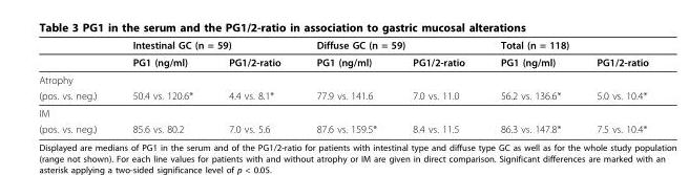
<table><thead><tr><td rowspan="2"></td><td colspan="2">Intestinal GC (n = 59)</td><td colspan="2">Diffuse GC (n = 59)</td><td colspan="2">Total (n = 118)</td></tr><tr><td>PG1 (ng/ml)</td><td>PG1/2-ratio</td><td>PG1 (ng/ml)</td><td>PG1/2-ratio</td><td>PG1 (ng/ml)</td><td>PG1/2-ratio</td></tr></thead><tbody><tr><td colspan="7">Atrophy</td></tr><tr><td>(pos. vs. neg.)</td><td>50.4 vs. 120.6*</td><td>4.4 vs. 8.1*</td><td>77.9 vs. 141.6</td><td>7.0 vs. 11.0</td><td>56.2 vs. 136.6*</td><td>5.0 vs. 10.4*</td></tr><tr><td colspan="7">IM</td></tr><tr><td>(pos. vs. neg.)</td><td>85.6 vs. 80.2</td><td>7.0 vs. 5.6</td><td>87.6 vs. 159.5*</td><td>8.4 vs. 11.5</td><td>86.3 vs. 147.8*</td><td>7.5 vs. 10.4*</td></tr></tbody></table>